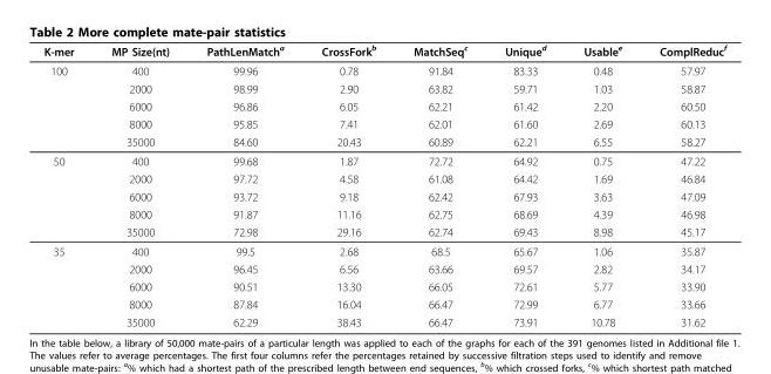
<table><thead><tr><td>K-mer</td><td>MP Size(nt)</td><td>PathLenMatch<sup>a</sup></td><td>CrossFork<sup>b</sup></td><td>MatchSeq<sup>c</sup></td><td>Unique<sup>d</sup></td><td>Usable<sup>e</sup></td><td>ComplReduc<sup>f</sup></td></tr></thead><tbody><tr><td rowspan="5">100</td><td>400</td><td>99.96</td><td>0.78</td><td>91.84</td><td>83.33</td><td>0.48</td><td>57.97</td></tr><tr><td>2000</td><td>98.99</td><td>2.90</td><td>63.82</td><td>59.71</td><td>1.03</td><td>58.87</td></tr><tr><td>6000</td><td>96.86</td><td>6.05</td><td>62.21</td><td>61.42</td><td>2.20</td><td>60.50</td></tr><tr><td>8000</td><td>95.85</td><td>7.41</td><td>62.01</td><td>61.60</td><td>2.69</td><td>60.13</td></tr><tr><td>35000</td><td>84.60</td><td>20.43</td><td>60.89</td><td>62.21</td><td>6.55</td><td>58.27</td></tr><tr><td rowspan="5">50</td><td>400</td><td>99.68</td><td>1.87</td><td>72.72</td><td>64.92</td><td>0.75</td><td>47.22</td></tr><tr><td>2000</td><td>97.72</td><td>4.58</td><td>61.08</td><td>64.42</td><td>1.69</td><td>46.84</td></tr><tr><td>6000</td><td>93.72</td><td>9.18</td><td>62.42</td><td>67.93</td><td>3.63</td><td>47.09</td></tr><tr><td>8000</td><td>91.87</td><td>11.16</td><td>62.75</td><td>68.69</td><td>4.39</td><td>46.98</td></tr><tr><td>35000</td><td>72.98</td><td>29.16</td><td>62.74</td><td>69.43</td><td>8.98</td><td>45.17</td></tr><tr><td rowspan="5">35</td><td>400</td><td>99.5</td><td>2.68</td><td>68.5</td><td>65.67</td><td>1.06</td><td>35.87</td></tr><tr><td>2000</td><td>96.45</td><td>6.56</td><td>63.66</td><td>69.57</td><td>2.82</td><td>34.17</td></tr><tr><td>6000</td><td>90.51</td><td>13.30</td><td>66.05</td><td>72.61</td><td>5.77</td><td>33.90</td></tr><tr><td>8000</td><td>87.84</td><td>16.04</td><td>66.47</td><td>72.99</td><td>6.77</td><td>33.66</td></tr><tr><td>35000</td><td>62.29</td><td>38.43</td><td>66.47</td><td>73.91</td><td>10.78</td><td>31.62</td></tr></tbody></table>